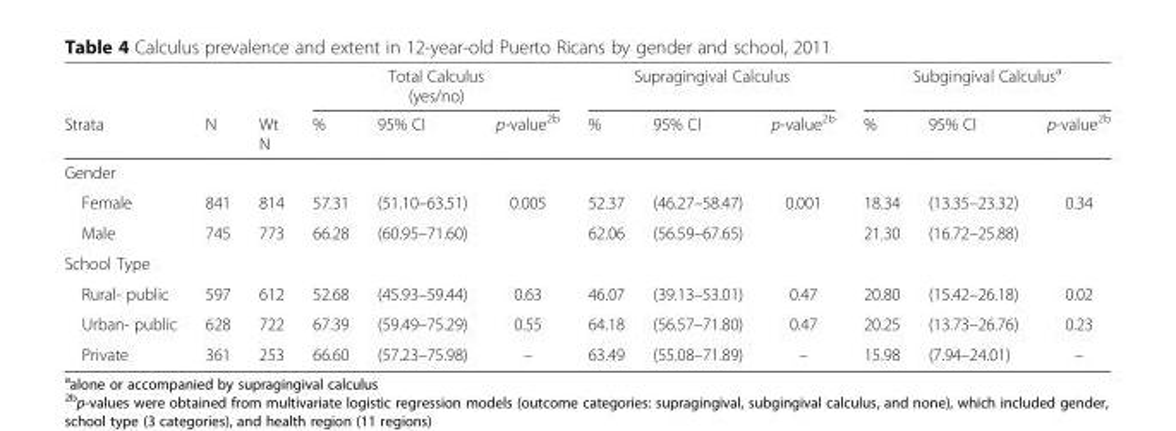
<table><thead><tr><td rowspan="2">Strata</td><td rowspan="2">N</td><td rowspan="2">Wt N</td><td colspan="3">Total Calculus (yes/no)</td><td colspan="3">Supragingival Calculus</td><td colspan="3">Subgingival Calculus<sup>a</sup></td></tr><tr><td>%</td><td>95% CI</td><td>p-value<sup>2b</sup></td><td>%</td><td>95% CI</td><td>p-value<sup>2b</sup></td><td>%</td><td>95% CI</td><td>p-value<sup>2b</sup></td></tr></thead><tbody><tr><td colspan="12">Gender</td></tr><tr><td>Female</td><td>841</td><td>814</td><td>57.31</td><td>(51.10–63.51)</td><td rowspan="2">0.005</td><td>52.37</td><td>(46.27–58.47)</td><td rowspan="2">0.001</td><td>18.34</td><td>(13.35–23.32)</td><td rowspan="2">0.34</td></tr><tr><td>Male</td><td>745</td><td>773</td><td>66.28</td><td>(60.95–71.60)</td><td>62.06</td><td>(56.59–67.65)</td><td>21.30</td><td>(16.72–25.88)</td></tr><tr><td colspan="12">School Type</td></tr><tr><td>Rural- public</td><td>597</td><td>612</td><td>52.68</td><td>(45.93–59.44)</td><td>0.63</td><td>46.07</td><td>(39.13–53.01)</td><td>0.47</td><td>20.80</td><td>(15.42–26.18)</td><td>0.02</td></tr><tr><td>Urban- public</td><td>628</td><td>722</td><td>67.39</td><td>(59.49–75.29)</td><td>0.55</td><td>64.18</td><td>(56.57–71.80)</td><td>0.47</td><td>20.25</td><td>(13.73–26.76)</td><td>0.23</td></tr><tr><td>Private</td><td>361</td><td>253</td><td>66.60</td><td>(57.23–75.98)</td><td>–</td><td>63.49</td><td>(55.08–71.89)</td><td>–</td><td>15.98</td><td>(7.94–24.01)</td><td>–</td></tr></tbody></table>